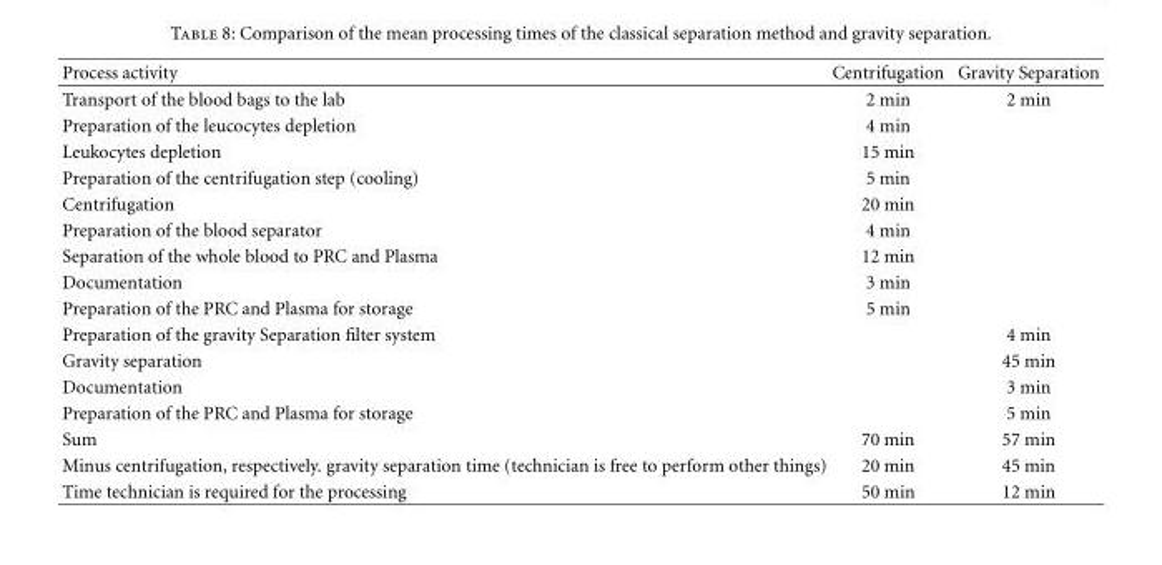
<table><thead><tr><td>Process activity</td><td>Centrifugation</td><td>Gravity Separation</td></tr></thead><tbody><tr><td>Transport of the blood bags to the lab</td><td>2 min</td><td>2 min</td></tr><tr><td>Preparation of the leucocytes depletion</td><td>4 min</td><td></td></tr><tr><td>Leukocytes depletion</td><td>15 min</td><td></td></tr><tr><td>Preparation of the centrifugation step (cooling)</td><td>5 min</td><td></td></tr><tr><td>Centrifugation</td><td>20 min</td><td></td></tr><tr><td>Preparation of the blood separator</td><td>4 min</td><td></td></tr><tr><td>Separation of the whole blood to PRC and Plasma</td><td>12 min</td><td></td></tr><tr><td>Documentation</td><td>3 min</td><td></td></tr><tr><td>Preparation of the PRC and Plasma for storage</td><td>5 min</td><td></td></tr><tr><td>Preparation of the gravity Separation filter system</td><td></td><td>4 min</td></tr><tr><td>Gravity separation</td><td></td><td>45 min</td></tr><tr><td>Documentation</td><td></td><td>3 min</td></tr><tr><td>Preparation of the PRC and Plasma for storage</td><td></td><td>5 min</td></tr><tr><td>Sum</td><td>70 min</td><td>57 min</td></tr><tr><td>Minus centrifugation, respectively. gravity separation time (technician is free to perform other things)</td><td>20 min</td><td>45 min</td></tr><tr><td>Time technician is required for the processing</td><td>50 min</td><td>12 min</td></tr></tbody></table>